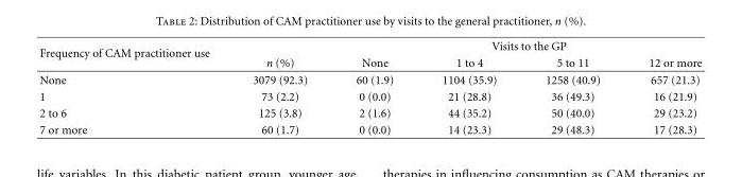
<table><thead><tr><td rowspan="2">Frequency of CAM practitioner use</td><td rowspan="2">n (%)</td><td colspan="4">Visits to the GP</td></tr><tr><td>None</td><td>1 to 4</td><td>5 to 11</td><td>12 or more</td></tr></thead><tbody><tr><td>None</td><td>3079 (92.3)</td><td>60 (1.9)</td><td>1104 (35.9)</td><td>1258 (40.9)</td><td>657 (21.3)</td></tr><tr><td>1</td><td>73 (2.2)</td><td>0 (0.0)</td><td>21 (28.8)</td><td>36 (49.3)</td><td>16 (21.9)</td></tr><tr><td>2 to 6</td><td>125 (3.8)</td><td>2 (1.6)</td><td>44 (35.2)</td><td>50 (40.0)</td><td>29 (23.2)</td></tr><tr><td>7 or more</td><td>60 (1.7)</td><td>0 (0.0)</td><td>14 (23.3)</td><td>29 (48.3)</td><td>17 (28.3)</td></tr></tbody></table>